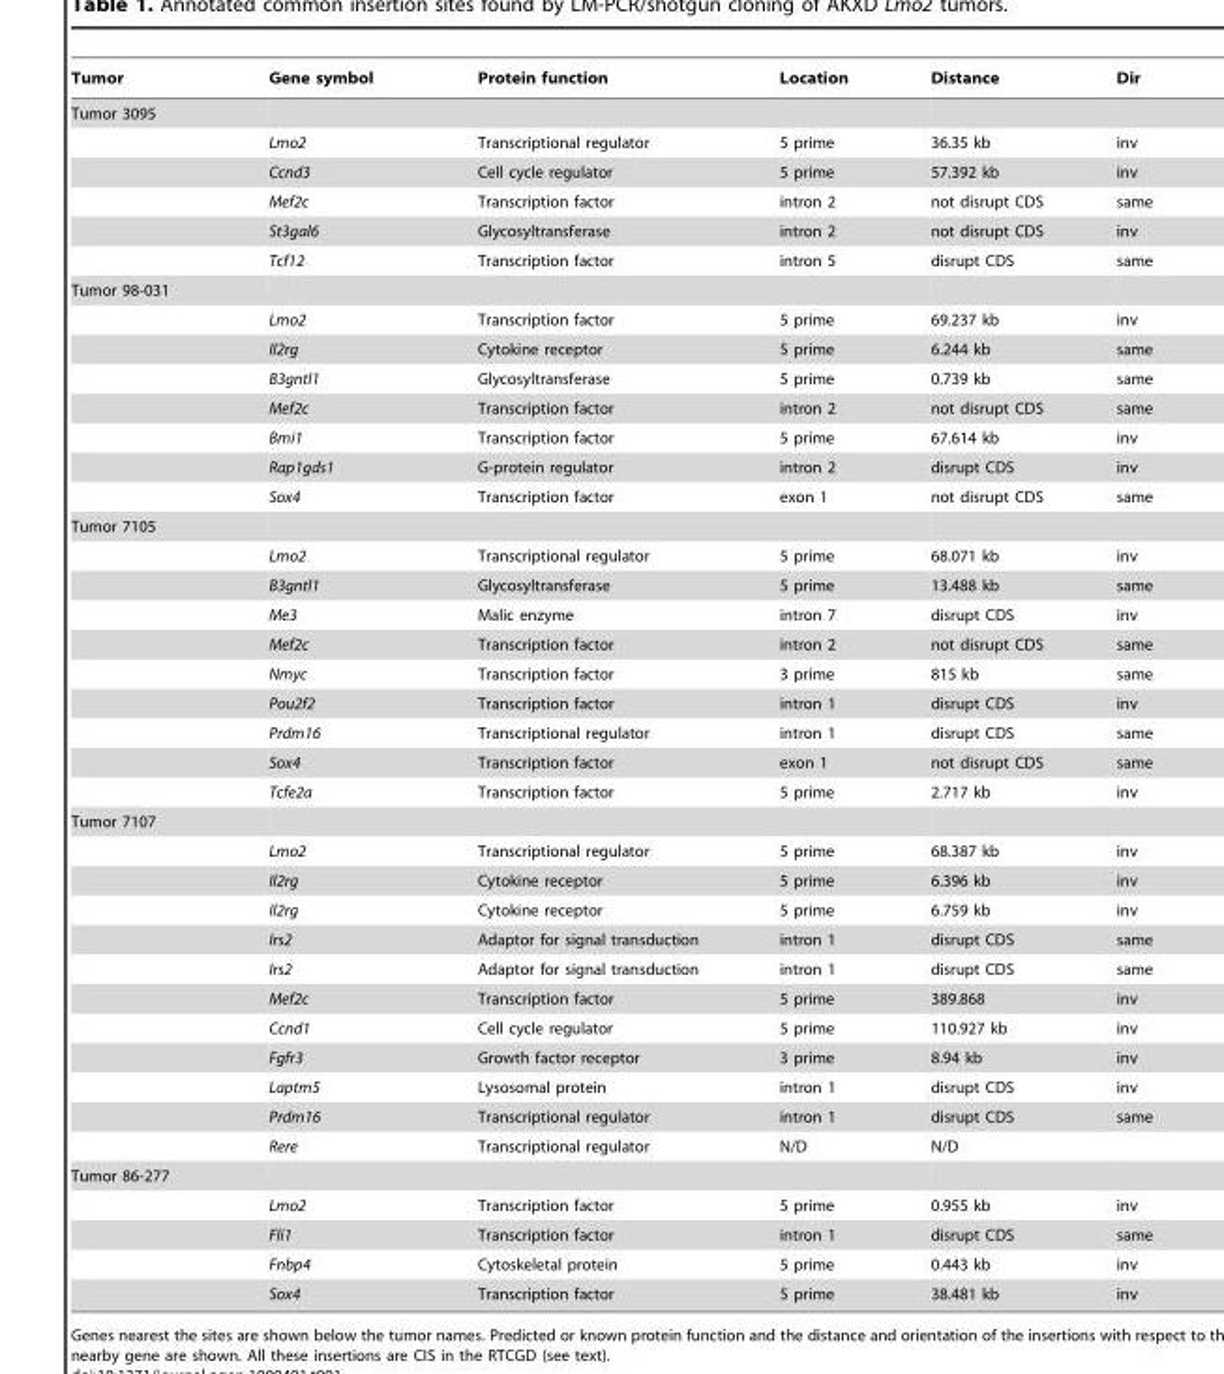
<table><thead><tr><td>Tumor</td><td>Gene symbol</td><td>Protein function</td><td>Location</td><td>Distance</td><td>Dir</td></tr></thead><tbody><tr><td colspan="6">Tumor 3095</td></tr><tr><td></td><td>Lmo2</td><td>Transcriptional regulator</td><td>5 prime</td><td>36.35 kb</td><td>inv</td></tr><tr><td></td><td>Ccnd3</td><td>Cell cycle regulator</td><td>5 prime</td><td>57.392 kb</td><td>inv</td></tr><tr><td></td><td>Mef2c</td><td>Transcription factor</td><td>intron 2</td><td>not disrupt CDS</td><td>same</td></tr><tr><td></td><td>St3gal6</td><td>Glycosyltransferase</td><td>intron 2</td><td>not disrupt CDS</td><td>inv</td></tr><tr><td></td><td>Tcf12</td><td>Transcription factor</td><td>intron 5</td><td>disrupt CDS</td><td>same</td></tr><tr><td colspan="6">Tumor 98-031</td></tr><tr><td></td><td>Lmo2</td><td>Transcription factor</td><td>5 prime</td><td>69.237 kb</td><td>inv</td></tr><tr><td></td><td>Il2rg</td><td>Cytokine receptor</td><td>5 prime</td><td>6.244 kb</td><td>same</td></tr><tr><td></td><td>B3gntl1</td><td>Glycosyltransferase</td><td>5 prime</td><td>0.739 kb</td><td>same</td></tr><tr><td></td><td>Mef2c</td><td>Transcription factor</td><td>intron 2</td><td>not disrupt CDS</td><td>same</td></tr><tr><td></td><td>Bmi1</td><td>Transcription factor</td><td>5 prime</td><td>67.614 kb</td><td>inv</td></tr><tr><td></td><td>Rap1gds1</td><td>G-protein regulator</td><td>intron 2</td><td>disrupt CDS</td><td>inv</td></tr><tr><td></td><td>Sox4</td><td>Transcription factor</td><td>exon 1</td><td>not disrupt CDS</td><td>same</td></tr><tr><td colspan="6">Tumor 7105</td></tr><tr><td></td><td>Lmo2</td><td>Transcriptional regulator</td><td>5 prime</td><td>68.071 kb</td><td>inv</td></tr><tr><td></td><td>B3gntl1</td><td>Glycosyltransferase</td><td>5 prime</td><td>13.488 kb</td><td>same</td></tr><tr><td></td><td>Me3</td><td>Malic enzyme</td><td>intron 7</td><td>disrupt CDS</td><td>inv</td></tr><tr><td></td><td>Mef2c</td><td>Transcription factor</td><td>intron 2</td><td>not disrupt CDS</td><td>same</td></tr><tr><td></td><td>Nmyc</td><td>Transcription factor</td><td>3 prime</td><td>815 kb</td><td>same</td></tr><tr><td></td><td>Pou2f2</td><td>Transcription factor</td><td>intron 1</td><td>disrupt CDS</td><td>inv</td></tr><tr><td></td><td>Prdm16</td><td>Transcriptional regulator</td><td>intron 1</td><td>disrupt CDS</td><td>same</td></tr><tr><td></td><td>Sox4</td><td>Transcription factor</td><td>exon 1</td><td>not disrupt CDS</td><td>same</td></tr><tr><td></td><td>Tcfe2a</td><td>Transcription factor</td><td>5 prime</td><td>2.717 kb</td><td>inv</td></tr><tr><td colspan="6">Tumor 7107</td></tr><tr><td></td><td>Lmo2</td><td>Transcriptional regulator</td><td>5 prime</td><td>68.387 kb</td><td>inv</td></tr><tr><td></td><td>Il2rg</td><td>Cytokine receptor</td><td>5 prime</td><td>6.396 kb</td><td>inv</td></tr><tr><td></td><td>Il2rg</td><td>Cytokine receptor</td><td>5 prime</td><td>6.759 kb</td><td>inv</td></tr><tr><td></td><td>Irs2</td><td>Adaptor for signal transduction</td><td>intron 1</td><td>disrupt CDS</td><td>same</td></tr><tr><td></td><td>Irs2</td><td>Adaptor for signal transduction</td><td>intron 1</td><td>disrupt CDS</td><td>same</td></tr><tr><td></td><td>Mef2c</td><td>Transcription factor</td><td>5 prime</td><td>389.868</td><td>inv</td></tr><tr><td></td><td>Ccnd1</td><td>Cell cycle regulator</td><td>5 prime</td><td>110.927 kb</td><td>inv</td></tr><tr><td></td><td>Fgfr3</td><td>Growth factor receptor</td><td>3 prime</td><td>8.94 kb</td><td>inv</td></tr><tr><td></td><td>Laptm5</td><td>Lysosomal protein</td><td>intron 1</td><td>disrupt CDS</td><td>inv</td></tr><tr><td></td><td>Prdm16</td><td>Transcriptional regulator</td><td>intron 1</td><td>disrupt CDS</td><td>same</td></tr><tr><td></td><td>Rere</td><td>Transcriptional regulator</td><td>N/D</td><td>N/D</td><td></td></tr><tr><td colspan="6">Tumor 86-277</td></tr><tr><td></td><td>Lmo2</td><td>Transcription factor</td><td>5 prime</td><td>0.955 kb</td><td>inv</td></tr><tr><td></td><td>Fli1</td><td>Transcription factor</td><td>intron 1</td><td>disrupt CDS</td><td>same</td></tr><tr><td></td><td>Fnbp4</td><td>Cytoskeletal protein</td><td>5 prime</td><td>0.443 kb</td><td>inv</td></tr><tr><td></td><td>Sox4</td><td>Transcription factor</td><td>5 prime</td><td>38.481 kb</td><td>inv</td></tr></tbody></table>